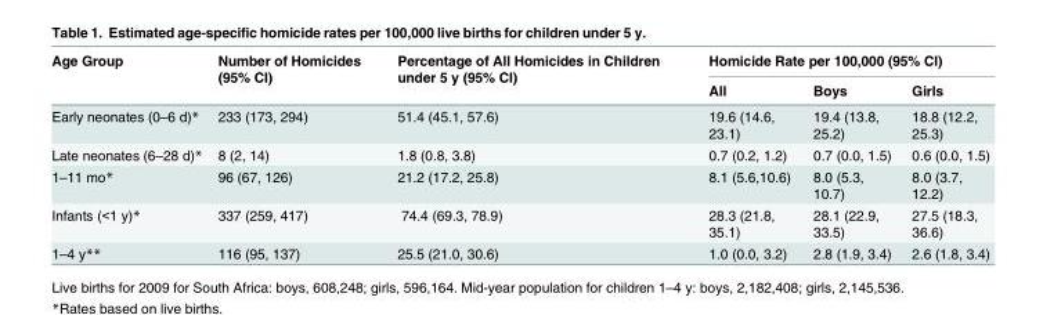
<table><thead><tr><td rowspan="2">Age Group</td><td rowspan="2">Number of Homicides (95% CI)</td><td rowspan="2">Percentage of All Homicides in Children under 5 y (95% CI)</td><td colspan="3">Homicide Rate per 100,000 (95% CI)</td></tr><tr><td>All</td><td>Boys</td><td>Girls</td></tr></thead><tbody><tr><td>Early neonates (0–6 d)*</td><td>233 (173, 294)</td><td>51.4 (45.1, 57.6)</td><td>19.6 (14.6, 23.1)</td><td>19.4 (13.8, 25.2)</td><td>18.8 (12.2, 25.3)</td></tr><tr><td>Late neonates (6–28 d)*</td><td>8 (2, 14)</td><td>1.8 (0.8, 3.8)</td><td>0.7 (0.2, 1.2)</td><td>0.7 (0.0, 1.5)</td><td>0.6 (0.0, 1.5)</td></tr><tr><td>1–11 mo*</td><td>96 (67, 126)</td><td>21.2 (17.2, 25.8)</td><td>8.1 (5.6,10.6)</td><td>8.0 (5.3, 10.7)</td><td>8.0 (3.7, 12.2)</td></tr><tr><td>Infants (&lt;1 y)*</td><td>337 (259, 417)</td><td>74.4 (69.3, 78.9)</td><td>28.3 (21.8, 35.1)</td><td>28.1 (22.9, 33.5)</td><td>27.5 (18.3, 36.6)</td></tr><tr><td>1–4 y**</td><td>116 (95, 137)</td><td>25.5 (21.0, 30.6)</td><td>1.0 (0.0, 3.2)</td><td>2.8 (1.9, 3.4)</td><td>2.6 (1.8, 3.4)</td></tr></tbody></table>